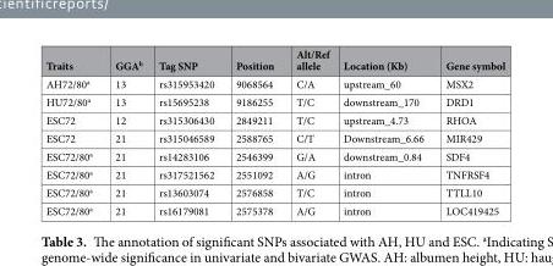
<table><thead><tr><td>Traits</td><td>GGA<sup>b</sup></td><td>Tag SNP</td><td>Position</td><td>Alt/Ref allele</td><td>Location (Kb)</td><td>Gene symbol</td></tr></thead><tbody><tr><td>AH72/80<sup>a</sup></td><td>13</td><td>rs315953420</td><td>9068564</td><td>C/A</td><td>upstream_60</td><td>MSX2</td></tr><tr><td>HU72/80<sup>a</sup></td><td>13</td><td>rs15695238</td><td>9186255</td><td>T/C</td><td>downstream_170</td><td>DRD1</td></tr><tr><td>ESC72</td><td>12</td><td>rs315306430</td><td>2849211</td><td>T/C</td><td>upstream_4.73</td><td>RHOA</td></tr><tr><td>ESC72</td><td>21</td><td>rs315046589</td><td>2588765</td><td>C/T</td><td>Downstream_6.66</td><td>MIR429</td></tr><tr><td>ESC72/80<sup>a</sup></td><td>21</td><td>rs14283106</td><td>2546399</td><td>G/A</td><td>downstream_0.84</td><td>SDF4</td></tr><tr><td>ESC72/80<sup>a</sup></td><td>21</td><td>rs317521562</td><td>2551092</td><td>A/G</td><td>intron</td><td>TNFRSF4</td></tr><tr><td>ESC72/80<sup>a</sup></td><td>21</td><td>rs13603074</td><td>2576858</td><td>T/C</td><td>intron</td><td>TTLL10</td></tr><tr><td>ESC72/80<sup>a</sup></td><td>21</td><td>rs16179081</td><td>2575378</td><td>A/G</td><td>intron</td><td>LOC419425</td></tr></tbody></table>